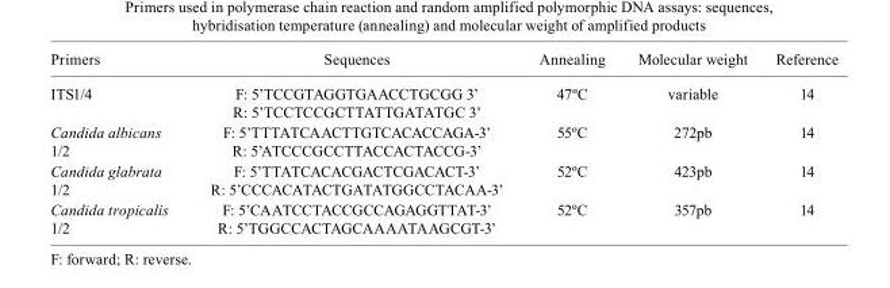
<table><thead><tr><td>Primers</td><td>Sequences</td><td>Annealing</td><td>Molecular weight</td><td>Reference</td></tr></thead><tbody><tr><td>ITS1/4</td><td>F: 5’TCCGTAGGTGAACCTGCGG 3’ R: 5’TCCTCCGCTTATTGATATGC 3’</td><td>47ºC</td><td>variable</td><td>14</td></tr><tr><td>Candida albicans 1/2</td><td>F: 5’TTTATCAACTTGTCACACCAGA-3’ R: 5’ATCCCGCCTTACCACTACCG-3’</td><td>55ºC</td><td>272pb</td><td>14</td></tr><tr><td>Candida glabrata 1/2</td><td>F: 5’TTATCACACGACTCGACACT-3’ R: 5’CCCACATACTGATATGGCCTACAA-3’</td><td>52ºC</td><td>423pb</td><td>14</td></tr><tr><td>Candida tropicalis 1/2</td><td>F: 5’CAATCCTACCGCCAGAGGTTAT-3’ R: 5’TGGCCACTAGCAAAATAAGCGT-3’</td><td>52ºC</td><td>357pb</td><td>14</td></tr></tbody></table>